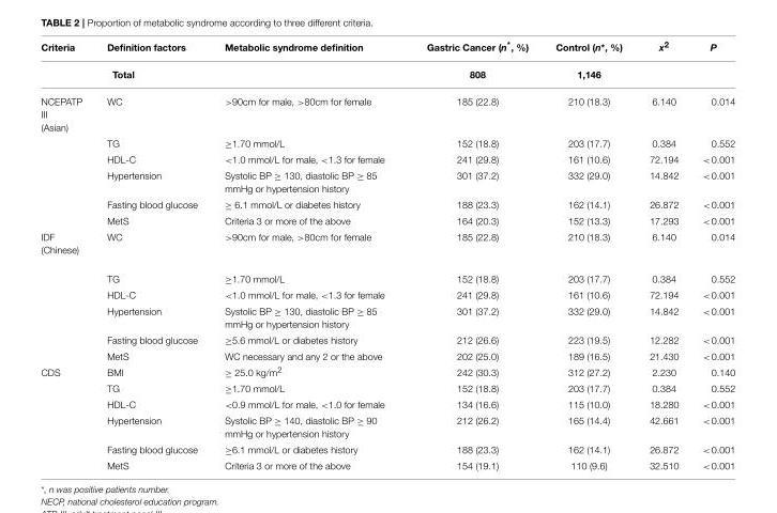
<table><thead><tr><td>Criteria</td><td>Definition factors</td><td>Metabolic syndrome definition</td><td>Gastric Cancer (n*, %)</td><td>Control (n*, %)</td><td>x<sup>2</sup></td><td>P</td></tr></thead><tbody><tr><td></td><td>Total</td><td></td><td>808</td><td>1,146</td><td></td><td></td></tr><tr><td rowspan="6">NCEPATP III (Asian)</td><td>WC</td><td>&gt;90cm for male, &gt;80cm for female</td><td>185 (22.8)</td><td>210 (18.3)</td><td>6.140</td><td>0.014</td></tr><tr><td>TG</td><td>≥1.70 mmol/L</td><td>152 (18.8)</td><td>203 (17.7)</td><td>0.384</td><td>0.552</td></tr><tr><td>HDL-C</td><td>&lt;1.0 mmol/L for male, &lt;1.3 for female</td><td>241 (29.8)</td><td>161 (10.6)</td><td>72.194</td><td>&lt;0.001</td></tr><tr><td>Hypertension</td><td>Systolic BP ≥ 130, diastolic BP ≥ 85 mmHg or hypertension history</td><td>301 (37.2)</td><td>332 (29.0)</td><td>14.842</td><td>&lt;0.001</td></tr><tr><td>Fasting blood glucose</td><td>≥ 6.1 mmol/L or diabetes history</td><td>188 (23.3)</td><td>162 (14.1)</td><td>26.872</td><td>&lt;0.001</td></tr><tr><td>MetS</td><td>Criteria 3 or more of the above</td><td>164 (20.3)</td><td>152 (13.3)</td><td>17.293</td><td>&lt;0.001</td></tr><tr><td rowspan="6">IDF (Chinese)</td><td>WC</td><td>&gt;90cm for male, &gt;80cm for female</td><td>185 (22.8)</td><td>210 (18.3)</td><td>6.140</td><td>0.014</td></tr><tr><td>TG</td><td>≥1.70 mmol/L</td><td>152 (18.8)</td><td>203 (17.7)</td><td>0.384</td><td>0.552</td></tr><tr><td>HDL-C</td><td>&lt;1.0 mmol/L for male, &lt;1.3 for female</td><td>241 (29.8)</td><td>161 (10.6)</td><td>72.194</td><td>&lt;0.001</td></tr><tr><td>Hypertension</td><td>Systolic BP ≥ 130, diastolic BP ≥ 85 mmHg or hypertension history</td><td>301 (37.2)</td><td>332 (29.0)</td><td>14.842</td><td>&lt;0.001</td></tr><tr><td>Fasting blood glucose</td><td>≥5.6 mmol/L or diabetes history</td><td>212 (26.6)</td><td>223 (19.5)</td><td>12.282</td><td>&lt;0.001</td></tr><tr><td>MetS</td><td>WC necessary and any 2 or the above</td><td>202 (25.0)</td><td>189 (16.5)</td><td>21.430</td><td>&lt;0.001</td></tr><tr><td rowspan="6">CDS</td><td>BMI</td><td>≥ 25.0 kg/m<sup>2</sup></td><td>242 (30.3)</td><td>312 (27.2)</td><td>2.230</td><td>0.140</td></tr><tr><td>TG</td><td>≥1.70 mmol/L</td><td>152 (18.8)</td><td>203 (17.7)</td><td>0.384</td><td>0.552</td></tr><tr><td>HDL-C</td><td>&lt;0.9 mmol/L for male, &lt;1.0 for female</td><td>134 (16.6)</td><td>115 (10.0)</td><td>18.280</td><td>&lt;0.001</td></tr><tr><td>Hypertension</td><td>Systolic BP ≥ 140, diastolic BP ≥ 90 mmHg or hypertension history</td><td>212 (26.2)</td><td>165 (14.4)</td><td>42.661</td><td>&lt;0.001</td></tr><tr><td>Fasting blood glucose</td><td>≥6.1 mmol/L or diabetes history</td><td>188 (23.3)</td><td>162 (14.1)</td><td>26.872</td><td>&lt;0.001</td></tr><tr><td>MetS</td><td>Criteria 3 or more of the above</td><td>154 (19.1)</td><td>110 (9.6)</td><td>32.510</td><td>&lt;0.001</td></tr></tbody></table>